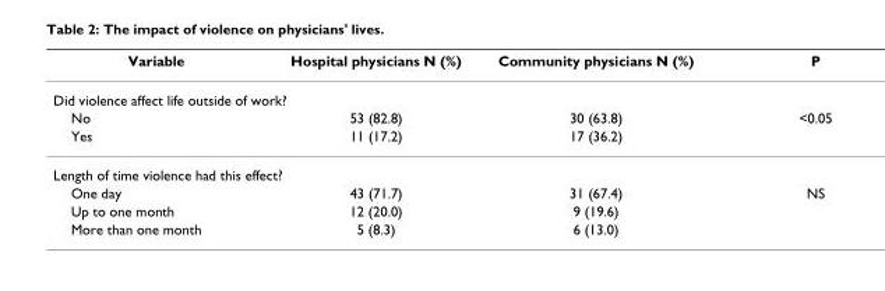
<table><thead><tr><td>Variable</td><td>Hospital physicians N (%)</td><td>Community physicians N (%)</td><td>P</td></tr></thead><tbody><tr><td colspan="4">Did violence affect life outside of work?</td></tr><tr><td>No</td><td>53 (82.8)</td><td>30 (63.8)</td><td>&lt;0.05</td></tr><tr><td>Yes</td><td>11 (17.2)</td><td>17 (36.2)</td><td></td></tr><tr><td colspan="4">Length of time violence had this effect?</td></tr><tr><td>One day</td><td>43 (71.7)</td><td>31 (67.4)</td><td>NS</td></tr><tr><td>Up to one month</td><td>12 (20.0)</td><td>9 (19.6)</td><td></td></tr><tr><td>More than one month</td><td>5 (8.3)</td><td>6 (13.0)</td><td></td></tr></tbody></table>